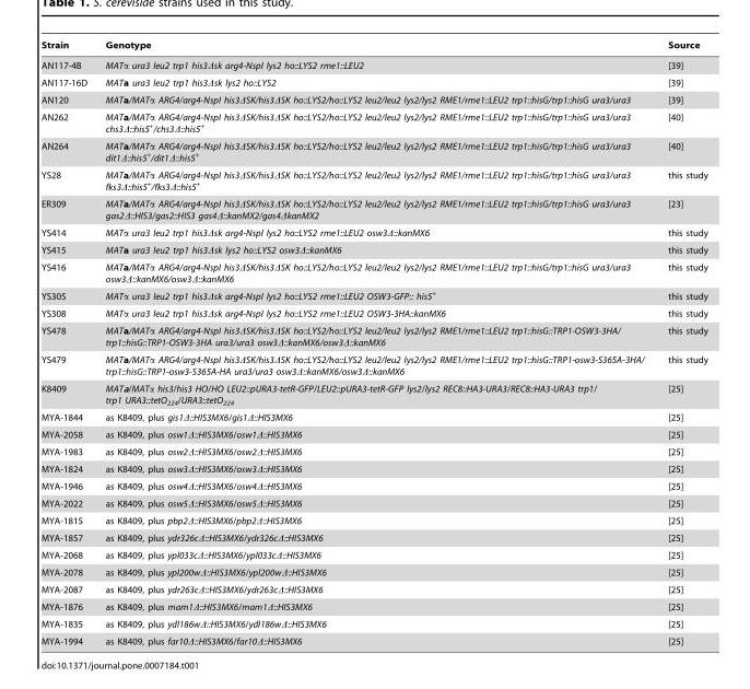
<table><thead><tr><td>Strain</td><td>Genotype</td><td>Source</td></tr></thead><tbody><tr><td>AN117-4B</td><td>MATα ura3 leu2 trp1 his3Δsk arg4-NspI lys2 ho::LYS2 rme1::LEU2</td><td>[39]</td></tr><tr><td>AN117-16D</td><td>MATa ura3 leu2 trp1 his3Δsk lys2 ho::LYS2</td><td>[39]</td></tr><tr><td>AN120</td><td>MATa/MATα ARG4/arg4-NspI his3ΔSK/his3ΔSK ho::LYS2/ho::LYS2 leu2/leu2 lys2/lys2 RME1/rme1::LEU2 trp1::hisG/trp1::hisG ura3/ura3</td><td>[39]</td></tr><tr><td>AN262</td><td>MATa/MATα ARG4/arg4-NspI his3ΔSK/his3ΔSK ho::LYS2/ho::LYS2 leu2/leu2 lys2/lys2 RME1/rme1::LEU2 trp1::hisG/trp1::hisG ura3/ura3 chs3Δ::his5<sup>+</sup>/chs3Δ::his5<sup>+</sup></td><td>[40]</td></tr><tr><td>AN264</td><td>MATa/MATα ARG4/arg4-NspI his3ΔSK/his3ΔSK ho::LYS2/ho::LYS2 leu2/leu2 lys2/lys2 RME1/rme1::LEU2 trp1::hisG/trp1::hisG ura3/ura3 dit1Δ::his5<sup>+</sup>/dit1Δ::his5<sup>+</sup></td><td>[40]</td></tr><tr><td>YS28</td><td>MATa/MATα ARG4/arg4-NspI his3ΔSK/his3ΔSK ho::LYS2/ho::LYS2 leu2/leu2 lys2/lys2 RME1/rme1::LEU2 trp1::hisG/trp1::hisG ura3/ura3 fks3Δ::his5<sup>+</sup>/fks3Δ::his5<sup>+</sup></td><td>this study</td></tr><tr><td>ER309</td><td>MATa/MATα ARG4/arg4-NspI his3ΔSK/his3ΔSK ho::LYS2/ho::LYS2 leu2/leu2 lys2/lys2 RME1/rme1::LEU2 trp1::hisG/trp1::hisG ura3/ura3 gas2Δ::HIS3/gas2::HIS3 gas4Δ::kanMX2/gas4ΔkanMX2</td><td>[23]</td></tr><tr><td>YS414</td><td>MATα ura3 leu2 trp1 his3Δsk arg4-NspI lys2 ho::LYS2 rme1::LEU2 osw3Δ::kanMX6</td><td>this study</td></tr><tr><td>YS415</td><td>MATa ura3 leu2 trp1 his3Δsk lys2 ho::LYS2 osw3Δ::kanMX6</td><td>this study</td></tr><tr><td>YS416</td><td>MATa/MATα ARG4/arg4-NspI his3ΔSK/his3ΔSK ho::LYS2/ho::LYS2 leu2/leu2 lys2/lys2 RME1/rme1::LEU2 trp1::hisG/trp1::hisG ura3/ura3 osw3Δ::kanMX6/osw3Δ::kanMX6</td><td>this study</td></tr><tr><td>YS305</td><td>MATα ura3 leu2 trp1 his3Δsk arg4-NspI lys2 ho::LYS2 rme1::LEU2 OSW3-GFP:: his5<sup>+</sup></td><td>this study</td></tr><tr><td>YS308</td><td>MATα ura3 leu2 trp1 his3Δsk arg4-NspI lys2 ho::LYS2 rme1::LEU2 OSW3-3HA::kanMX6</td><td>this study</td></tr><tr><td>YS478</td><td>MATa/MATα ARG4/arg4-NspI his3ΔSK/his3ΔSK ho::LYS2/ho::LYS2 leu2/leu2 lys2/lys2 RME1/rme1::LEU2 trp1::hisG::TRP1-OSW3-3HA/ trp1::hisG::TRP1-OSW3-3HA ura3/ura3 osw3Δ::kanMX6/osw3Δ::kanMX6</td><td>this study</td></tr><tr><td>YS479</td><td>MATa/MATα ARG4/arg4-NspI his3ΔSK/his3ΔSK ho::LYS2/ho::LYS2 leu2/leu2 lys2/lys2 RME1/rme1::LEU2 trp1::hisG::TRP1-osw3-S365A-3HA/ trp1::hisG::TRP1-osw3-S365A-HA ura3/ura3 osw3Δ::kanMX6/osw3Δ::kanMX6</td><td>this study</td></tr><tr><td>K8409</td><td>MATa/MATα his3/his3 HO/HO LEU2::pURA3-tetR-GFP/LEU2::pURA3-tetR-GFP lys2/lys2 REC8::HA3-URA3/REC8::HA3-URA3 trp1/ trp1 URA3::tetO<sub>224</sub>/URA3::tetO<sub>224</sub></td><td>[25]</td></tr><tr><td>MYA-1844</td><td>as K8409, plus gis1Δ::HIS3MX6/gis1Δ::HIS3MX6</td><td>[25]</td></tr><tr><td>MYA-2058</td><td>as K8409, plus osw1Δ::HIS3MX6/osw1Δ::HIS3MX6</td><td>[25]</td></tr><tr><td>MYA-1983</td><td>as K8409, plus osw2Δ::HIS3MX6/osw2Δ::HIS3MX6</td><td>[25]</td></tr><tr><td>MYA-1824</td><td>as K8409, plus osw3Δ::HIS3MX6/osw3Δ::HIS3MX6</td><td>[25]</td></tr><tr><td>MYA-1946</td><td>as K8409, plus osw4Δ::HIS3MX6/osw4Δ::HIS3MX6</td><td>[25]</td></tr><tr><td>MYA-2022</td><td>as K8409, plus osw5Δ::HIS3MX6/osw5Δ::HIS3MX6</td><td>[25]</td></tr><tr><td>MYA-1815</td><td>as K8409, plus pbp2Δ::HIS3MX6/pbp2Δ::HIS3MX6</td><td>[25]</td></tr><tr><td>MYA-1857</td><td>as K8409, plus ydr326cΔ::HIS3MX6/ydr326cΔ::HIS3MX6</td><td>[25]</td></tr><tr><td>MYA-2068</td><td>as K8409, plus ypl033cΔ::HIS3MX6/ypl033cΔ::HIS3MX6</td><td>[25]</td></tr><tr><td>MYA-2078</td><td>as K8409, plus ypl200wΔ::HIS3MX6/ypl200wΔ::HIS3MX6</td><td>[25]</td></tr><tr><td>MYA-2087</td><td>as K8409, plus ydr263cΔ::HIS3MX6/ydr263cΔ::HIS3MX6</td><td>[25]</td></tr><tr><td>MYA-1876</td><td>as K8409, plus mam1Δ::HIS3MX6/mam1Δ::HIS3MX6</td><td>[25]</td></tr><tr><td>MYA-1835</td><td>as K8409, plus ydl186wΔ::HIS3MX6/ydl186wΔ::HIS3MX6</td><td>[25]</td></tr><tr><td>MYA-1994</td><td>as K8409, plus far10Δ::HIS3MX6/far10Δ::HIS3MX6</td><td>[25]</td></tr></tbody></table>